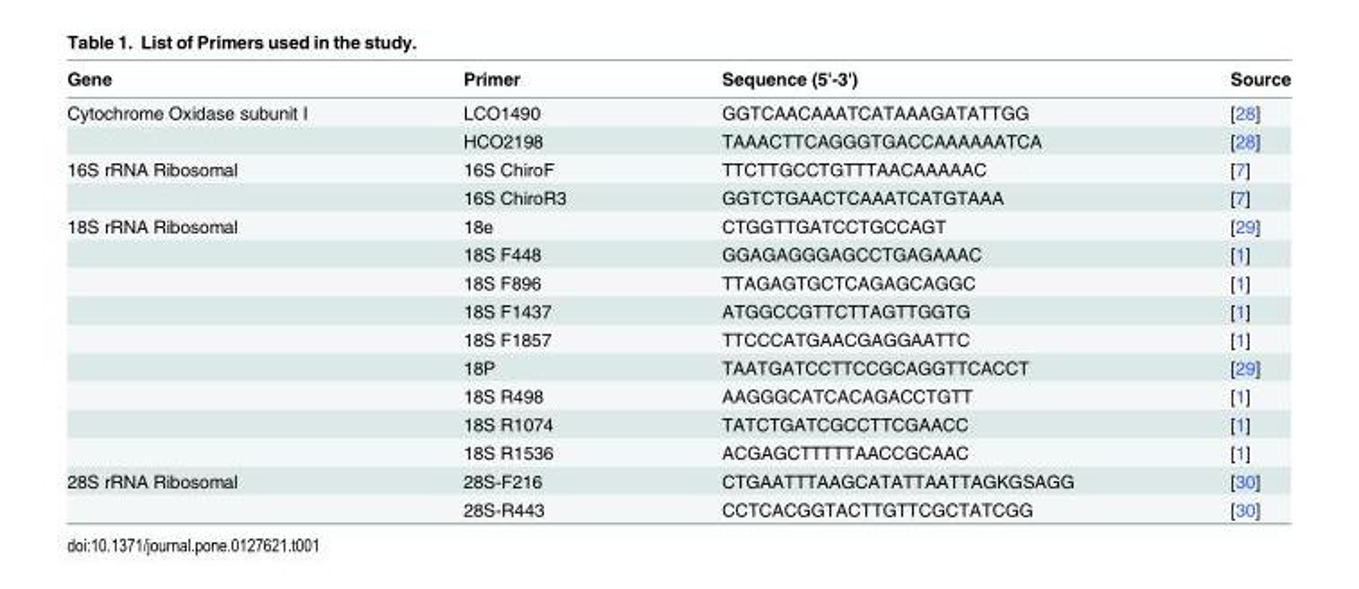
<table><thead><tr><td>Gene</td><td>Primer</td><td>Sequence (5&#x27;-3&#x27;)</td><td>Source</td></tr></thead><tbody><tr><td rowspan="2">Cytochrome Oxidase subunit I</td><td>LCO1490</td><td>GGTCAACAAATCATAAAGATATTGG</td><td>[28]</td></tr><tr><td>HCO2198</td><td>TAAACTTCAGGGTGACCAAAAAATCA</td><td>[28]</td></tr><tr><td rowspan="2">16S rRNA Ribosomal</td><td>16S ChiroF</td><td>TTCTTGCCTGTTTAACAAAAAC</td><td>[7]</td></tr><tr><td>16S ChiroR3</td><td>GGTCTGAACTCAAATCATGTAAA</td><td>[7]</td></tr><tr><td rowspan="9">18S rRNA Ribosomal</td><td>18e</td><td>CTGGTTGATCCTGCCAGT</td><td>[29]</td></tr><tr><td>18S F448</td><td>GGAGAGGGAGCCTGAGAAAC</td><td>[1]</td></tr><tr><td>18S F896</td><td>TTAGAGTGCTCAGAGCAGGC</td><td>[1]</td></tr><tr><td>18S F1437</td><td>ATGGCCGTTCTTAGTTGGTG</td><td>[1]</td></tr><tr><td>18S F1857</td><td>TTCCCATGAACGAGGAATTC</td><td>[1]</td></tr><tr><td>18P</td><td>TAATGATCCTTCCGCAGGTTCACCT</td><td>[29]</td></tr><tr><td>18S R498</td><td>AAGGGCATCACAGACCTGTT</td><td>[1]</td></tr><tr><td>18S R1074</td><td>TATCTGATCGCCTTCGAACC</td><td>[1]</td></tr><tr><td>18S R1536</td><td>ACGAGCTTTTTAACCGCAAC</td><td>[1]</td></tr><tr><td rowspan="2">28S rRNA Ribosomal</td><td>28S-F216</td><td>CTGAATTTAAGCATATTAATTAGKGSAGG</td><td>[30]</td></tr><tr><td>28S-R443</td><td>CCTCACGGTACTTGTTCGCTATCGG</td><td>[30]</td></tr></tbody></table>